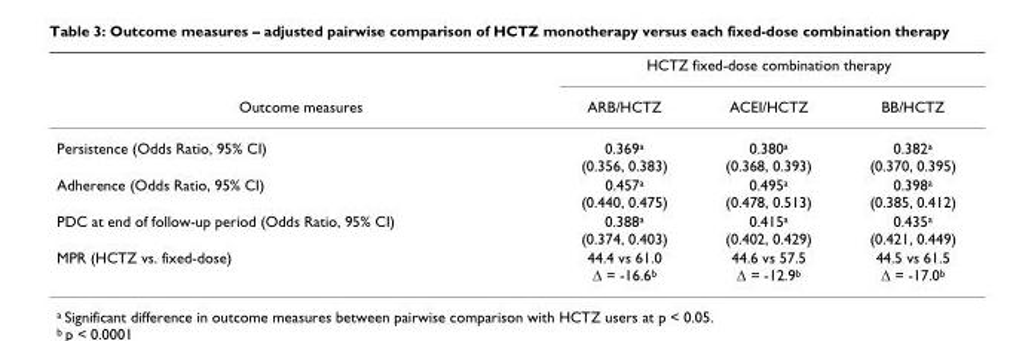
<table><thead><tr><td rowspan="2">Outcome measures</td><td colspan="3">HCTZ fixed-dose combination therapy</td></tr><tr><td>ARB/HCTZ</td><td>ACEI/HCTZ</td><td>BB/HCTZ</td></tr></thead><tbody><tr><td>Persistence (Odds Ratio, 95% CI)</td><td>0.369<sup>a</sup> (0.356, 0.383)</td><td>0.380<sup>a</sup> (0.368, 0.393)</td><td>0.382<sup>a</sup> (0.370, 0.395)</td></tr><tr><td>Adherence (Odds Ratio, 95% CI)</td><td>0.457<sup>a</sup> (0.440, 0.475)</td><td>0.495<sup>a</sup> (0.478, 0.513)</td><td>0.398<sup>a</sup> (0.385, 0.412)</td></tr><tr><td>PDC at end of follow-up period (Odds Ratio, 95% CI)</td><td>0.388<sup>a</sup> (0.374, 0.403)</td><td>0.415<sup>a</sup> (0.402, 0.429)</td><td>0.435<sup>a</sup> (0.421, 0.449)</td></tr><tr><td>MPR (HCTZ vs. fixed-dose)</td><td>44.4 vs 61.0 Δ = -16.6<sup>b</sup></td><td>44.6 vs 57.5 Δ = -12.9<sup>b</sup></td><td>44.5 vs 61.5 Δ = -17.0<sup>b</sup></td></tr></tbody></table>